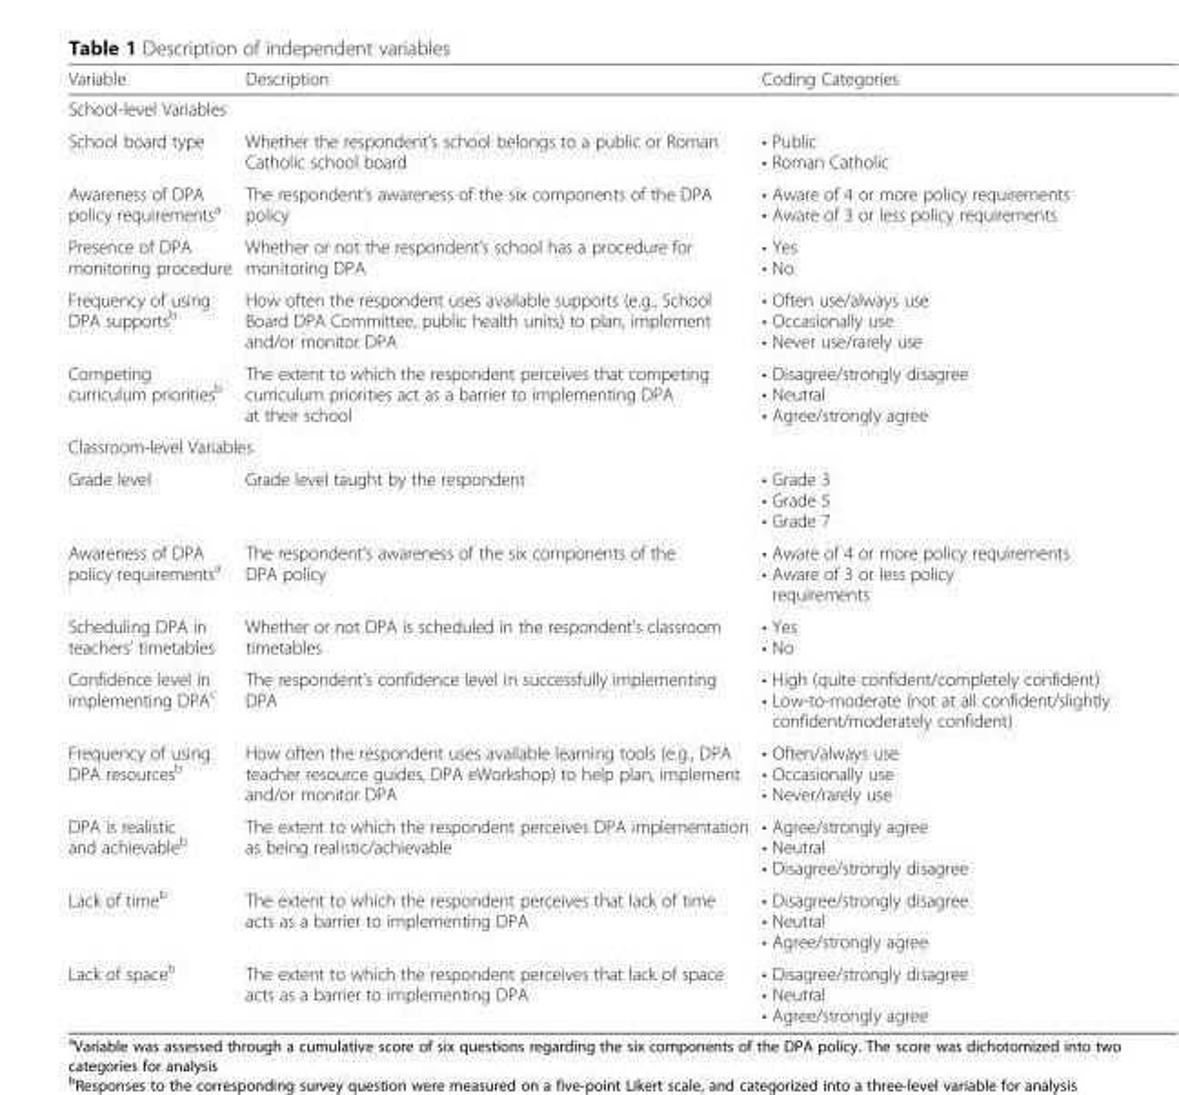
<table><thead><tr><td>Variable</td><td>Description</td><td>Coding Categories</td></tr></thead><tbody><tr><td colspan="3">School-level Variables</td></tr><tr><td>School board type</td><td>Whether the respondent’s school belongs to a public or Roman Catholic school board</td><td>• Public • Roman Catholic</td></tr><tr><td>Awareness of DPA policy requirements<sup>a</sup></td><td>The respondent’s awareness of the six components of the DPA policy</td><td>• Aware of 4 or more policy requirements • Aware of 3 or less policy requirements</td></tr><tr><td>Presence of DPA monitoring procedure</td><td>Whether or not the respondent’s school has a procedure for monitoring DPA</td><td>• Yes • No</td></tr><tr><td>Frequency of using DPA supports<sup>b</sup></td><td>How often the respondent uses available supports (e.g., School Board DPA Committee, public health units) to plan, implement and/or monitor DPA</td><td>• Often use/always use • Occasionally use • Never use/rarely use</td></tr><tr><td>Competing curriculum priorities<sup>b</sup></td><td>The extent to which the respondent perceives that competing curriculum priorities act as a barrier to implementing DPA at their school</td><td>• Disagree/strongly disagree • Neutral • Agree/strongly agree</td></tr><tr><td colspan="3">Classroom-level Variables</td></tr><tr><td>Grade level</td><td>Grade level taught by the respondent</td><td>• Grade 3 • Grade 5 • Grade 7</td></tr><tr><td>Awareness of DPA policy requirements<sup>a</sup></td><td>The respondent’s awareness of the six components of the DPA policy</td><td>• Aware of 4 or more policy requirements • Aware of 3 or less policy requirements</td></tr><tr><td>Scheduling DPA in teachers’ timetables</td><td>Whether or not DPA is scheduled in the respondent’s classroom timetables</td><td>• Yes • No</td></tr><tr><td>Confidence level in implementing DPA<sup>c</sup></td><td>The respondent’s confidence level in successfully implementing DPA</td><td>• High (quite confident/completely confident) • Low-to-moderate (not at all confident/slightly confident/moderately confident)</td></tr><tr><td>Frequency of using DPA resources<sup>b</sup></td><td>How often the respondent uses available learning tools (e.g., DPA teacher resource guides, DPA eWorkshop) to help plan, implement and/or monitor DPA</td><td>• Often/always use • Occasionally use • Never/rarely use</td></tr><tr><td>DPA is realistic and achievable<sup>b</sup></td><td>The extent to which the respondent perceives DPA implementation as being realistic/achievable</td><td>• Agree/strongly agree • Neutral • Disagree/strongly disagree</td></tr><tr><td>Lack of time<sup>b</sup></td><td>The extent to which the respondent perceives that lack of time acts as a barrier to implementing DPA</td><td>• Disagree/strongly disagree • Neutral • Agree/strongly agree</td></tr><tr><td>Lack of space<sup>b</sup></td><td>The extent to which the respondent perceives that lack of space acts as a barrier to implementing DPA</td><td>• Disagree/strongly disagree • Neutral • Agree/strongly agree</td></tr></tbody></table>